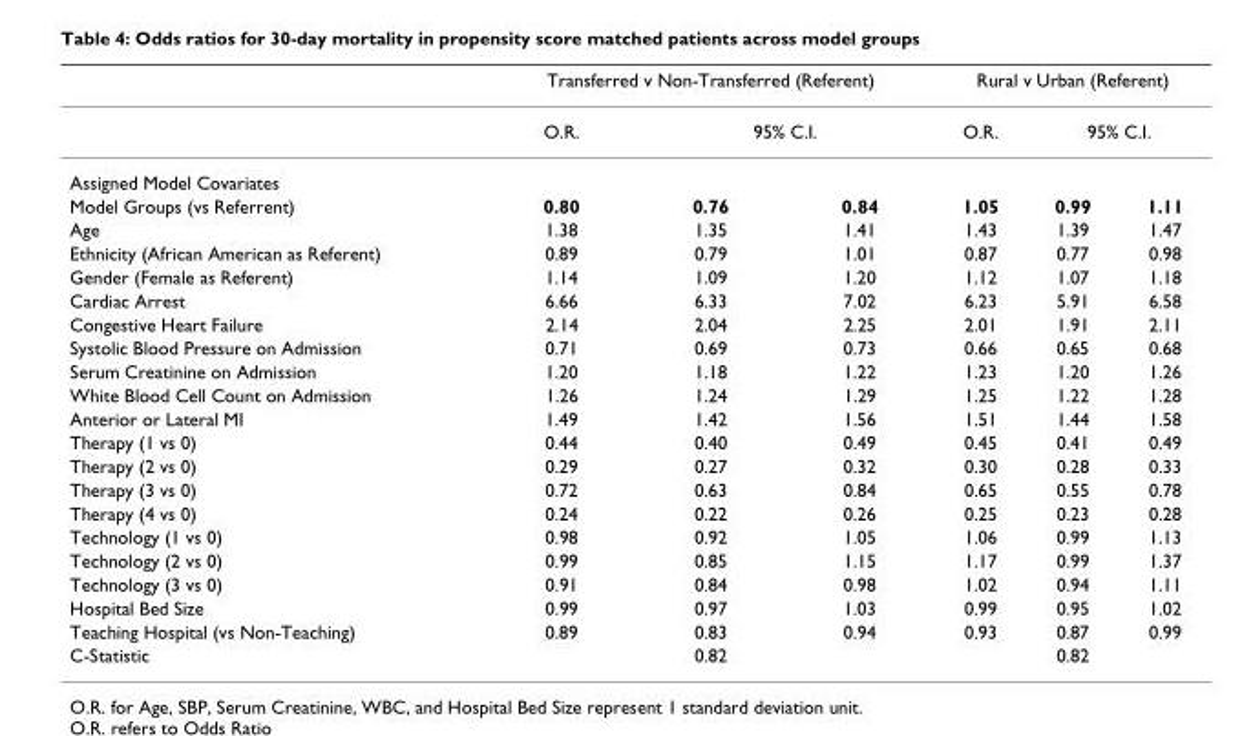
<table><thead><tr><td rowspan="3">Assigned Model Covariates</td><td colspan="3">Transferred v Non-Transferred (Referent)</td><td colspan="3">Rural v Urban (Referent)</td></tr><tr><td rowspan="2">O.R.</td><td colspan="2">95% C.I.</td><td rowspan="2">O.R.</td><td colspan="2">95% C.I.</td></tr><tr><td></td><td></td><td></td><td></td></tr></thead><tbody><tr><td>Model Groups (vs Referrent)</td><td>0.80</td><td>0.76</td><td>0.84</td><td>1.05</td><td>0.99</td><td>1.11</td></tr><tr><td>Age</td><td>1.38</td><td>1.35</td><td>1.41</td><td>1.43</td><td>1.39</td><td>1.47</td></tr><tr><td>Ethnicity (African American as Referent)</td><td>0.89</td><td>0.79</td><td>1.01</td><td>0.87</td><td>0.77</td><td>0.98</td></tr><tr><td>Gender (Female as Referent)</td><td>1.14</td><td>1.09</td><td>1.20</td><td>1.12</td><td>1.07</td><td>1.18</td></tr><tr><td>Cardiac Arrest</td><td>6.66</td><td>6.33</td><td>7.02</td><td>6.23</td><td>5.91</td><td>6.58</td></tr><tr><td>Congestive Heart Failure</td><td>2.14</td><td>2.04</td><td>2.25</td><td>2.01</td><td>1.91</td><td>2.11</td></tr><tr><td>Systolic Blood Pressure on Admission</td><td>0.71</td><td>0.69</td><td>0.73</td><td>0.66</td><td>0.65</td><td>0.68</td></tr><tr><td>Serum Creatinine on Admission</td><td>1.20</td><td>1.18</td><td>1.22</td><td>1.23</td><td>1.20</td><td>1.26</td></tr><tr><td>White Blood Cell Count on Admission</td><td>1.26</td><td>1.24</td><td>1.29</td><td>1.25</td><td>1.22</td><td>1.28</td></tr><tr><td>Anterior or Lateral MI</td><td>1.49</td><td>1.42</td><td>1.56</td><td>1.51</td><td>1.44</td><td>1.58</td></tr><tr><td>Therapy (1 vs 0)</td><td>0.44</td><td>0.40</td><td>0.49</td><td>0.45</td><td>0.41</td><td>0.49</td></tr><tr><td>Therapy (2 vs 0)</td><td>0.29</td><td>0.27</td><td>0.32</td><td>0.30</td><td>0.28</td><td>0.33</td></tr><tr><td>Therapy (3 vs 0)</td><td>0.72</td><td>0.63</td><td>0.84</td><td>0.65</td><td>0.55</td><td>0.78</td></tr><tr><td>Therapy (4 vs 0)</td><td>0.24</td><td>0.22</td><td>0.26</td><td>0.25</td><td>0.23</td><td>0.28</td></tr><tr><td>Technology (1 vs 0)</td><td>0.98</td><td>0.92</td><td>1.05</td><td>1.06</td><td>0.99</td><td>1.13</td></tr><tr><td>Technology (2 vs 0)</td><td>0.99</td><td>0.85</td><td>1.15</td><td>1.17</td><td>0.99</td><td>1.37</td></tr><tr><td>Technology (3 vs 0)</td><td>0.91</td><td>0.84</td><td>0.98</td><td>1.02</td><td>0.94</td><td>1.11</td></tr><tr><td>Hospital Bed Size</td><td>0.99</td><td>0.97</td><td>1.03</td><td>0.99</td><td>0.95</td><td>1.02</td></tr><tr><td>Teaching Hospital (vs Non-Teaching)</td><td>0.89</td><td>0.83</td><td>0.94</td><td>0.93</td><td>0.87</td><td>0.99</td></tr><tr><td>C-Statistic</td><td colspan="3">0.82</td><td colspan="3">0.82</td></tr></tbody></table>